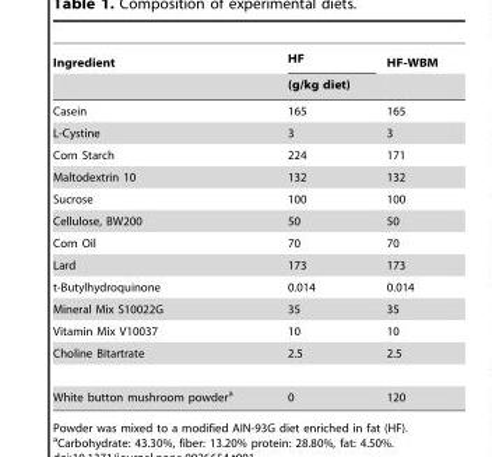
<table><thead><tr><td rowspan="2">Ingredient</td><td rowspan="2">HF (g/kg diet)</td><td rowspan="2">HF-WBM</td></tr><tr></tr></thead><tbody><tr><td>Casein</td><td>165</td><td>165</td></tr><tr><td>L-Cystine</td><td>3</td><td>3</td></tr><tr><td>Corn Starch</td><td>224</td><td>171</td></tr><tr><td>Maltodextrin 10</td><td>132</td><td>132</td></tr><tr><td>Sucrose</td><td>100</td><td>100</td></tr><tr><td>Cellulose, BW200</td><td>50</td><td>50</td></tr><tr><td>Corn Oil</td><td>70</td><td>70</td></tr><tr><td>Lard</td><td>173</td><td>173</td></tr><tr><td>t-Butylhydroquinone</td><td>0.014</td><td>0.014</td></tr><tr><td>Mineral Mix S10022G</td><td>35</td><td>35</td></tr><tr><td>Vitamin Mix V10037</td><td>10</td><td>10</td></tr><tr><td>Choline Bitartrate</td><td>2.5</td><td>2.5</td></tr><tr><td>White button mushroom powder<sup>a</sup></td><td>0</td><td>120</td></tr></tbody></table>